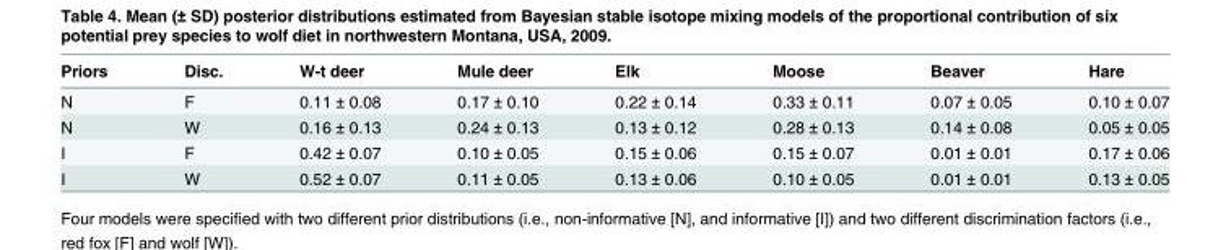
<table><thead><tr><td>Priors</td><td>Disc.</td><td>W-t deer</td><td>Mule deer</td><td>Elk</td><td>Moose</td><td>Beaver</td><td>Hare</td></tr></thead><tbody><tr><td>N</td><td>F</td><td>0.11 ± 0.08</td><td>0.17 ± 0.10</td><td>0.22 ± 0.14</td><td>0.33 ± 0.11</td><td>0.07 ± 0.05</td><td>0.10 ± 0.07</td></tr><tr><td>N</td><td>W</td><td>0.16 ± 0.13</td><td>0.24 ± 0.13</td><td>0.13 ± 0.12</td><td>0.28 ± 0.13</td><td>0.14 ± 0.08</td><td>0.05 ± 0.05</td></tr><tr><td>I</td><td>F</td><td>0.42 ± 0.07</td><td>0.10 ± 0.05</td><td>0.15 ± 0.06</td><td>0.15 ± 0.07</td><td>0.01 ± 0.01</td><td>0.17 ± 0.06</td></tr><tr><td>I</td><td>W</td><td>0.52 ± 0.07</td><td>0.11 ± 0.05</td><td>0.13 ± 0.06</td><td>0.10 ± 0.05</td><td>0.01 ± 0.01</td><td>0.13 ± 0.05</td></tr></tbody></table>